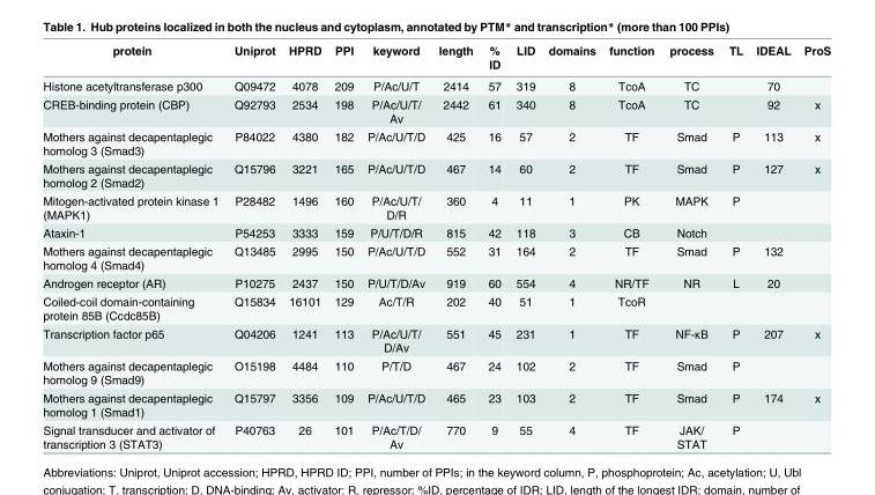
<table><thead><tr><td>protein</td><td>Uniprot</td><td>HPRD</td><td>PPI</td><td>keyword</td><td>length</td><td>% ID</td><td>LID</td><td>domains</td><td>function</td><td>process</td><td>TL</td><td>IDEAL</td><td>ProS</td></tr></thead><tbody><tr><td>Histone acetyltransferase p300</td><td>Q09472</td><td>4078</td><td>209</td><td>P/Ac/U/T</td><td>2414</td><td>57</td><td>319</td><td>8</td><td>TcoA</td><td>TC</td><td></td><td>70</td><td></td></tr><tr><td>CREB-binding protein (CBP)</td><td>Q92793</td><td>2534</td><td>198</td><td>P/Ac/U/T/ Av</td><td>2442</td><td>61</td><td>340</td><td>8</td><td>TcoA</td><td>TC</td><td></td><td>92</td><td>x</td></tr><tr><td>Mothers against decapentaplegic homolog 3 (Smad3)</td><td>P84022</td><td>4380</td><td>182</td><td>P/Ac/U/T/D</td><td>425</td><td>16</td><td>57</td><td>2</td><td>TF</td><td>Smad</td><td>P</td><td>113</td><td>x</td></tr><tr><td>Mothers against decapentaplegic homolog 2 (Smad2)</td><td>Q15796</td><td>3221</td><td>165</td><td>P/Ac/U/T/D</td><td>467</td><td>14</td><td>60</td><td>2</td><td>TF</td><td>Smad</td><td>P</td><td>127</td><td>x</td></tr><tr><td>Mitogen-activated protein kinase 1 (MAPK1)</td><td>P28482</td><td>1496</td><td>160</td><td>P/Ac/U/T/ D/R</td><td>360</td><td>4</td><td>11</td><td>1</td><td>PK</td><td>MAPK</td><td>P</td><td></td><td></td></tr><tr><td>Ataxin-1</td><td>P54253</td><td>3333</td><td>159</td><td>P/U/T/D/R</td><td>815</td><td>42</td><td>118</td><td>3</td><td>CB</td><td>Notch</td><td></td><td></td><td></td></tr><tr><td>Mothers against decapentaplegic homolog 4 (Smad4)</td><td>Q13485</td><td>2995</td><td>150</td><td>P/Ac/U/T/D</td><td>552</td><td>31</td><td>164</td><td>2</td><td>TF</td><td>Smad</td><td>P</td><td>132</td><td></td></tr><tr><td>Androgen receptor (AR)</td><td>P10275</td><td>2437</td><td>150</td><td>P/U/T/D/Av</td><td>919</td><td>60</td><td>554</td><td>4</td><td>NR/TF</td><td>NR</td><td>L</td><td>20</td><td></td></tr><tr><td>Coiled-coil domain-containing protein 85B (Ccdc85B)</td><td>Q15834</td><td>16101</td><td>129</td><td>Ac/T/R</td><td>202</td><td>40</td><td>51</td><td>1</td><td>TcoR</td><td></td><td></td><td></td><td></td></tr><tr><td>Transcription factor p65</td><td>Q04206</td><td>1241</td><td>113</td><td>P/Ac/U/T/ D/Av</td><td>551</td><td>45</td><td>231</td><td>1</td><td>TF</td><td>NF-κΒ</td><td>P</td><td>207</td><td>x</td></tr><tr><td>Mothers against decapentaplegic homolog 9 (Smad9)</td><td>O15198</td><td>4484</td><td>110</td><td>P/T/D</td><td>467</td><td>24</td><td>102</td><td>2</td><td>TF</td><td>Smad</td><td>P</td><td></td><td></td></tr><tr><td>Mothers against decapentaplegic homolog 1 (Smad1)</td><td>Q15797</td><td>3356</td><td>109</td><td>P/Ac/U/T/D</td><td>465</td><td>23</td><td>103</td><td>2</td><td>TF</td><td>Smad</td><td>P</td><td>174</td><td>x</td></tr><tr><td>Signal transducer and activator of transcription 3 (STAT3)</td><td>P40763</td><td>26</td><td>101</td><td>P/Ac/T/D/ Av</td><td>770</td><td>9</td><td>55</td><td>4</td><td>TF</td><td>JAK/ STAT</td><td>P</td><td></td><td></td></tr></tbody></table>